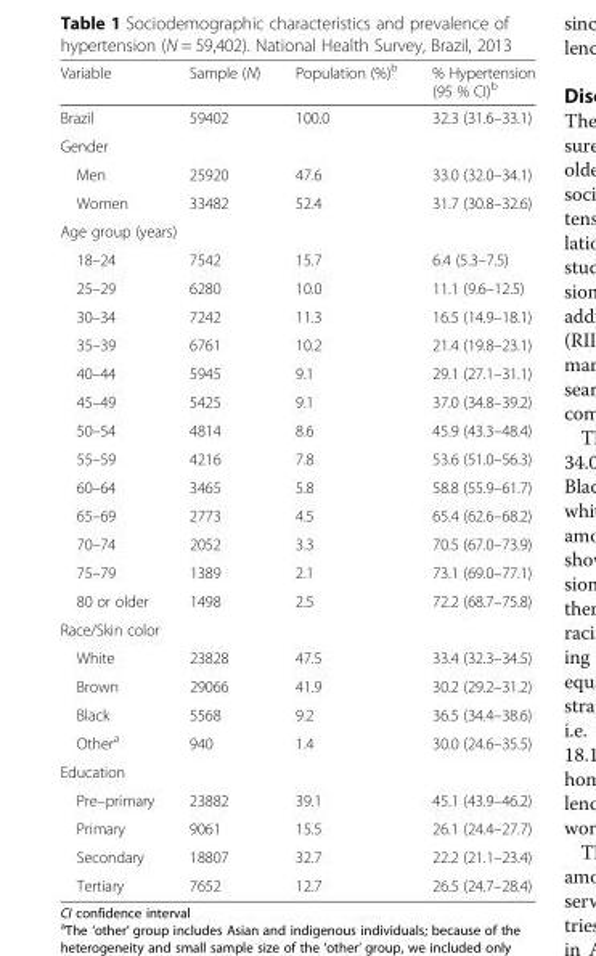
<table><thead><tr><td>Variable</td><td>Sample (N)</td><td>Population (%)<sup>b</sup></td><td>% Hypertension (95 % CI)<sup>b</sup></td></tr></thead><tbody><tr><td>Brazil</td><td>59402</td><td>100.0</td><td>32.3 (31.6–33.1)</td></tr><tr><td colspan="4">Gender</td></tr><tr><td>Men</td><td>25920</td><td>47.6</td><td>33.0 (32.0–34.1)</td></tr><tr><td>Women</td><td>33482</td><td>52.4</td><td>31.7 (30.8–32.6)</td></tr><tr><td colspan="4">Age group (years)</td></tr><tr><td>18–24</td><td>7542</td><td>15.7</td><td>6.4 (5.3–7.5)</td></tr><tr><td>25–29</td><td>6280</td><td>10.0</td><td>11.1 (9.6–12.5)</td></tr><tr><td>30–34</td><td>7242</td><td>11.3</td><td>16.5 (14.9–18.1)</td></tr><tr><td>35–39</td><td>6761</td><td>10.2</td><td>21.4 (19.8–23.1)</td></tr><tr><td>40–44</td><td>5945</td><td>9.1</td><td>29.1 (27.1–31.1)</td></tr><tr><td>45–49</td><td>5425</td><td>9.1</td><td>37.0 (34.8–39.2)</td></tr><tr><td>50–54</td><td>4814</td><td>8.6</td><td>45.9 (43.3–48.4)</td></tr><tr><td>55–59</td><td>4216</td><td>7.8</td><td>53.6 (51.0–56.3)</td></tr><tr><td>60–64</td><td>3465</td><td>5.8</td><td>58.8 (55.9–61.7)</td></tr><tr><td>65–69</td><td>2773</td><td>4.5</td><td>65.4 (62.6–68.2)</td></tr><tr><td>70–74</td><td>2052</td><td>3.3</td><td>70.5 (67.0–73.9)</td></tr><tr><td>75–79</td><td>1389</td><td>2.1</td><td>73.1 (69.0–77.1)</td></tr><tr><td>80 or older</td><td>1498</td><td>2.5</td><td>72.2 (68.7–75.8)</td></tr><tr><td colspan="4">Race/Skin color</td></tr><tr><td>White</td><td>23828</td><td>47.5</td><td>33.4 (32.3–34.5)</td></tr><tr><td>Brown</td><td>29066</td><td>41.9</td><td>30.2 (29.2–31.2)</td></tr><tr><td>Black</td><td>5568</td><td>9.2</td><td>36.5 (34.4–38.6)</td></tr><tr><td>Other<sup>a</sup></td><td>940</td><td>1.4</td><td>30.0 (24.6–35.5)</td></tr><tr><td colspan="4">Education</td></tr><tr><td>Pre–primary</td><td>23882</td><td>39.1</td><td>45.1 (43.9–46.2)</td></tr><tr><td>Primary</td><td>9061</td><td>15.5</td><td>26.1 (24.4–27.7)</td></tr><tr><td>Secondary</td><td>18807</td><td>32.7</td><td>22.2 (21.1–23.4)</td></tr><tr><td>Tertiary</td><td>7652</td><td>12.7</td><td>26.5 (24.7–28.4)</td></tr></tbody></table>